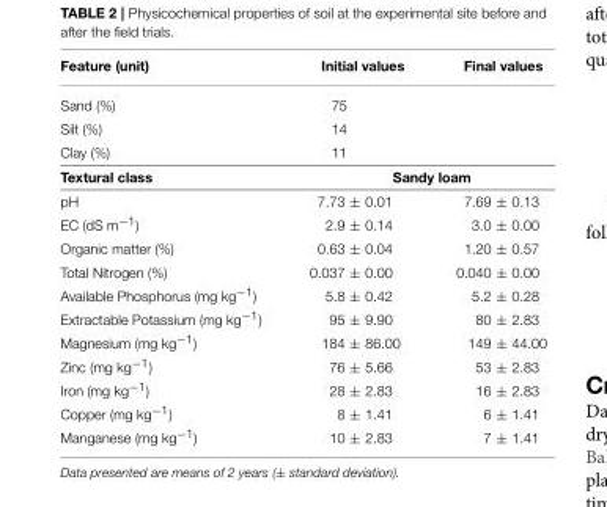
<table><thead><tr><td>Feature (unit)</td><td>Initial values</td><td>Final values</td></tr></thead><tbody><tr><td>Sand (%)</td><td>75</td><td></td></tr><tr><td>Silt (%)</td><td>14</td><td></td></tr><tr><td>Clay (%)</td><td>11</td><td></td></tr><tr><td>Textural class</td><td colspan="2">Sandy loam</td></tr><tr><td>pH</td><td>7.73 ± 0.01</td><td>7.69 ± 0.13</td></tr><tr><td>EC (dS m<sup>−1</sup>)</td><td>2.9 ± 0.14</td><td>3.0 ± 0.00</td></tr><tr><td>Organic matter (%)</td><td>0.63 ± 0.04</td><td>1.20 ± 0.57</td></tr><tr><td>Total Nitrogen (%)</td><td>0.037 ± 0.00</td><td>0.040 ± 0.00</td></tr><tr><td>Available Phosphorus (mg kg<sup>−1</sup>)</td><td>5.8 ± 0.42</td><td>5.2 ± 0.28</td></tr><tr><td>Extractable Potassium (mg kg<sup>−1</sup>)</td><td>95 ± 9.90</td><td>80 ± 2.83</td></tr><tr><td>Magnesium (mg kg<sup>−1</sup>)</td><td>184 ± 86.00</td><td>149 ± 44.00</td></tr><tr><td>Zinc (mg kg<sup>−1</sup>)</td><td>76 ± 5.66</td><td>53 ± 2.83</td></tr><tr><td>Iron (mg kg<sup>−1</sup>)</td><td>28 ± 2.83</td><td>16 ± 2.83</td></tr><tr><td>Copper (mg kg<sup>−1</sup>)</td><td>8 ± 1.41</td><td>6 ± 1.41</td></tr><tr><td>Manganese (mg kg<sup>−1</sup>)</td><td>10 ± 2.83</td><td>7 ± 1.41</td></tr></tbody></table>